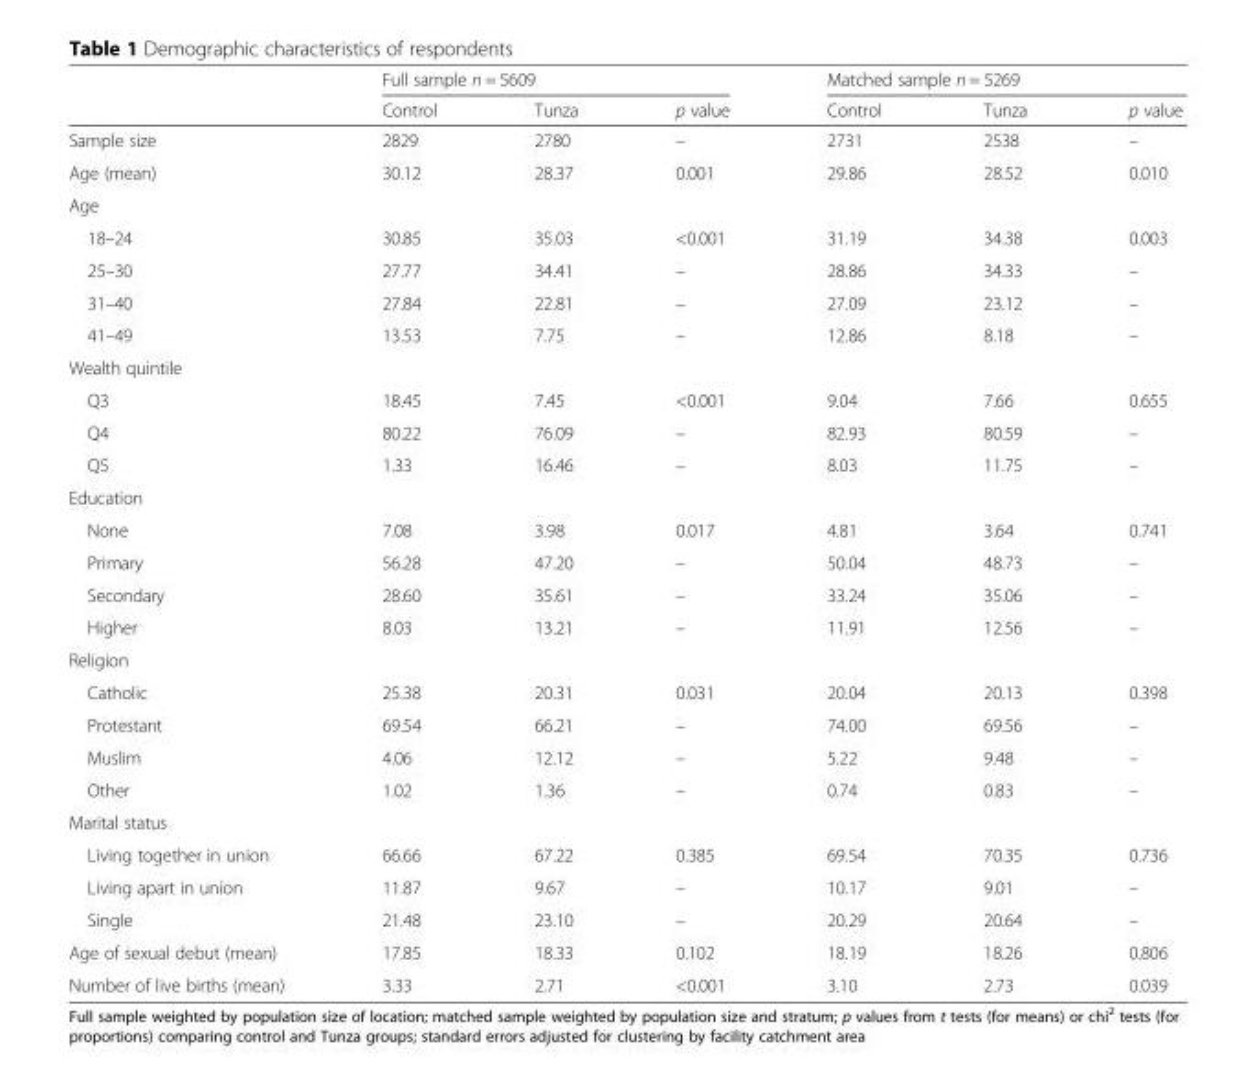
<table><thead><tr><td rowspan="2"></td><td colspan="3">Full sample n = 5609</td><td colspan="3">Matched sample n = 5269</td></tr><tr><td>Control</td><td>Tunza</td><td>p value</td><td>Control</td><td>Tunza</td><td>p value</td></tr></thead><tbody><tr><td>Sample size</td><td>2829</td><td>2780</td><td>–</td><td>2731</td><td>2538</td><td>–</td></tr><tr><td>Age (mean)</td><td>30.12</td><td>28.37</td><td>0.001</td><td>29.86</td><td>28.52</td><td>0.010</td></tr><tr><td colspan="7">Age</td></tr><tr><td>18–24</td><td>30.85</td><td>35.03</td><td>&lt;0.001</td><td>31.19</td><td>34.38</td><td>0.003</td></tr><tr><td>25–30</td><td>27.77</td><td>34.41</td><td>–</td><td>28.86</td><td>34.33</td><td>–</td></tr><tr><td>31–40</td><td>27.84</td><td>22.81</td><td>–</td><td>27.09</td><td>23.12</td><td>–</td></tr><tr><td>41–49</td><td>13.53</td><td>7.75</td><td>–</td><td>12.86</td><td>8.18</td><td>–</td></tr><tr><td colspan="7">Wealth quintile</td></tr><tr><td>Q3</td><td>18.45</td><td>7.45</td><td>&lt;0.001</td><td>9.04</td><td>7.66</td><td>0.655</td></tr><tr><td>Q4</td><td>80.22</td><td>76.09</td><td>–</td><td>82.93</td><td>80.59</td><td>–</td></tr><tr><td>Q5</td><td>1.33</td><td>16.46</td><td>–</td><td>8.03</td><td>11.75</td><td>–</td></tr><tr><td colspan="7">Education</td></tr><tr><td>None</td><td>7.08</td><td>3.98</td><td>0.017</td><td>4.81</td><td>3.64</td><td>0.741</td></tr><tr><td>Primary</td><td>56.28</td><td>47.20</td><td>–</td><td>50.04</td><td>48.73</td><td>–</td></tr><tr><td>Secondary</td><td>28.60</td><td>35.61</td><td>–</td><td>33.24</td><td>35.06</td><td>–</td></tr><tr><td>Higher</td><td>8.03</td><td>13.21</td><td>–</td><td>11.91</td><td>12.56</td><td>–</td></tr><tr><td colspan="7">Religion</td></tr><tr><td>Catholic</td><td>25.38</td><td>20.31</td><td>0.031</td><td>20.04</td><td>20.13</td><td>0.398</td></tr><tr><td>Protestant</td><td>69.54</td><td>66.21</td><td>–</td><td>74.00</td><td>69.56</td><td>–</td></tr><tr><td>Muslim</td><td>4.06</td><td>12.12</td><td>–</td><td>5.22</td><td>9.48</td><td>–</td></tr><tr><td>Other</td><td>1.02</td><td>1.36</td><td>–</td><td>0.74</td><td>0.83</td><td>–</td></tr><tr><td colspan="7">Marital status</td></tr><tr><td>Living together in union</td><td>66.66</td><td>67.22</td><td>0.385</td><td>69.54</td><td>70.35</td><td>0.736</td></tr><tr><td>Living apart in union</td><td>11.87</td><td>9.67</td><td>–</td><td>10.17</td><td>9.01</td><td>–</td></tr><tr><td>Single</td><td>21.48</td><td>23.10</td><td>–</td><td>20.29</td><td>20.64</td><td>–</td></tr><tr><td>Age of sexual debut (mean)</td><td>17.85</td><td>18.33</td><td>0.102</td><td>18.19</td><td>18.26</td><td>0.806</td></tr><tr><td>Number of live births (mean)</td><td>3.33</td><td>2.71</td><td>&lt;0.001</td><td>3.10</td><td>2.73</td><td>0.039</td></tr></tbody></table>